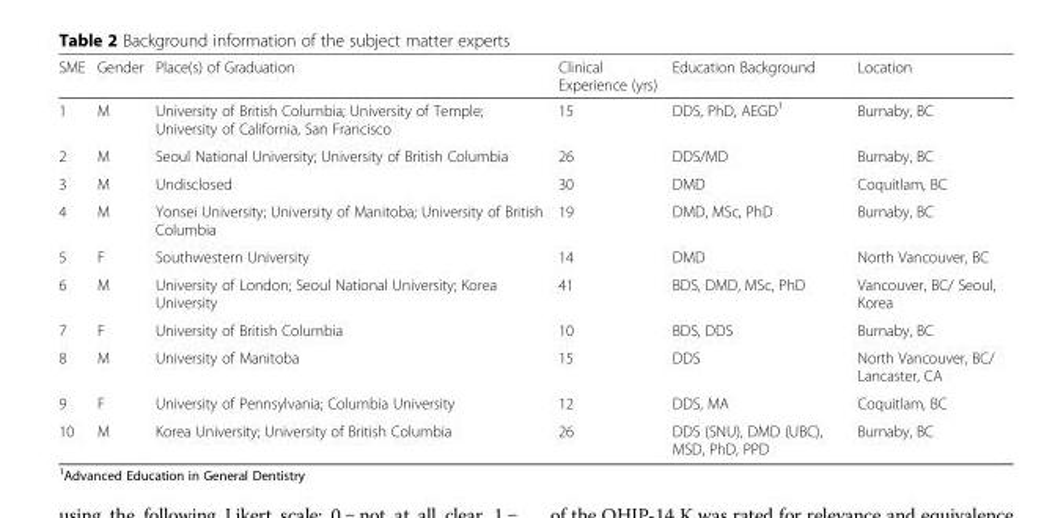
<table><thead><tr><td>SME</td><td>Gender</td><td>Place(s) of Graduation</td><td>Clinical Experience (yrs)</td><td>Education Background</td><td>Location</td></tr></thead><tbody><tr><td>1</td><td>M</td><td>University of British Columbia; University of Temple; University of California, San Francisco</td><td>15</td><td>DDS, PhD, AEGD<sup>1</sup></td><td>Burnaby, BC</td></tr><tr><td>2</td><td>M</td><td>Seoul National University; University of British Columbia</td><td>26</td><td>DDS/MD</td><td>Burnaby, BC</td></tr><tr><td>3</td><td>M</td><td>Undisclosed</td><td>30</td><td>DMD</td><td>Coquitlam, BC</td></tr><tr><td>4</td><td>M</td><td>Yonsei University; University of Manitoba; University of British Columbia</td><td>19</td><td>DMD, MSc, PhD</td><td>Burnaby, BC</td></tr><tr><td>5</td><td>F</td><td>Southwestern University</td><td>14</td><td>DMD</td><td>North Vancouver, BC</td></tr><tr><td>6</td><td>M</td><td>University of London; Seoul National University; Korea University</td><td>41</td><td>BDS, DMD, MSc, PhD</td><td>Vancouver, BC/ Seoul, Korea</td></tr><tr><td>7</td><td>F</td><td>University of British Columbia</td><td>10</td><td>BDS, DDS</td><td>Burnaby, BC</td></tr><tr><td>8</td><td>M</td><td>University of Manitoba</td><td>15</td><td>DDS</td><td>North Vancouver, BC/ Lancaster, CA</td></tr><tr><td>9</td><td>F</td><td>University of Pennsylvania; Columbia University</td><td>12</td><td>DDS, MA</td><td>Coquitlam, BC</td></tr><tr><td>10</td><td>M</td><td>Korea University; University of British Columbia</td><td>26</td><td>DDS (SNU), DMD (UBC), MSD, PhD, PPD</td><td>Burnaby, BC</td></tr></tbody></table>